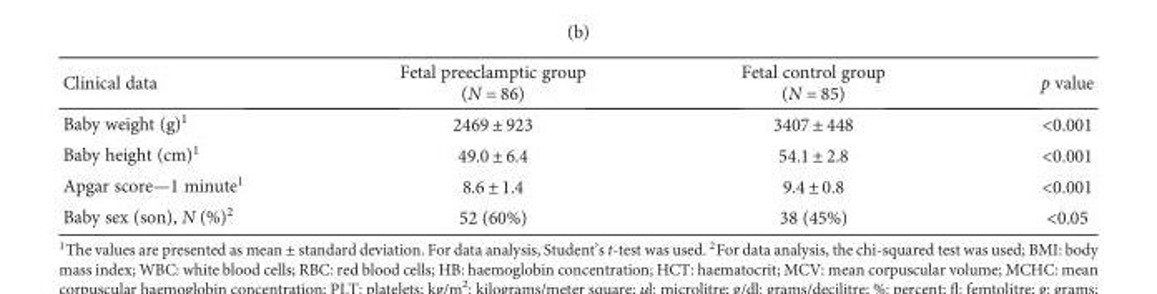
<table><thead><tr><td>Clinical data</td><td>Fetal preeclamptic group (N = 86)</td><td>Fetal control group (N = 85)</td><td>p value</td></tr></thead><tbody><tr><td>Baby weight (g)<sup>1</sup></td><td>2469 ± 923</td><td>3407 ± 448</td><td>&lt;0.001</td></tr><tr><td>Baby height (cm)<sup>1</sup></td><td>49.0 ± 6.4</td><td>54.1 ± 2.8</td><td>&lt;0.001</td></tr><tr><td>Apgar score—1 minute<sup>1</sup></td><td>8.6 ± 1.4</td><td>9.4 ± 0.8</td><td>&lt;0.001</td></tr><tr><td>Baby sex (son), N (%)<sup>2</sup></td><td>52 (60%)</td><td>38 (45%)</td><td>&lt;0.05</td></tr></tbody></table>